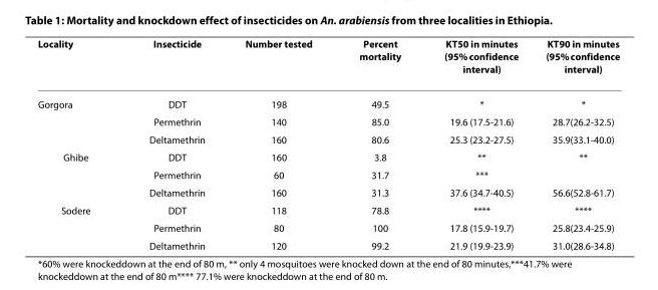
<table><thead><tr><td>Locality</td><td>Insecticide</td><td>Number tested</td><td>Percent mortality</td><td>KT<sub>50</sub> in minutes (95% confidence interval)</td><td>KT<sub>90</sub> in minutes (95% confidence interval)</td></tr></thead><tbody><tr><td rowspan="3">Gorgora</td><td>DDT</td><td>198</td><td>49.5</td><td>*</td><td>*</td></tr><tr><td>Permethrin</td><td>140</td><td>85.0</td><td>19.6 (17.5-21.6)</td><td>28.7(26.2-32.5)</td></tr><tr><td>Deltamethrin</td><td>160</td><td>80.6</td><td>25.3 (23.2-27.5)</td><td>35.9(33.1-40.0)</td></tr><tr><td rowspan="3">Ghibe</td><td>DDT</td><td>160</td><td>3.8</td><td>**</td><td>**</td></tr><tr><td>Permethrin</td><td>60</td><td>31.7</td><td>***</td><td></td></tr><tr><td>Deltamethrin</td><td>160</td><td>31.3</td><td>37.6 (34.7-40.5)</td><td>56.6(52.8-61.7)</td></tr><tr><td rowspan="3">Sodere</td><td>DDT</td><td>118</td><td>78.8</td><td>****</td><td>****</td></tr><tr><td>Permethrin</td><td>80</td><td>100</td><td>17.8 (15.9-19.7)</td><td>25.8(23.4-25.9)</td></tr><tr><td>Deltamethrin</td><td>120</td><td>99.2</td><td>21.9 (19.9-23.9)</td><td>31.0(28.6-34.8)</td></tr></tbody></table>